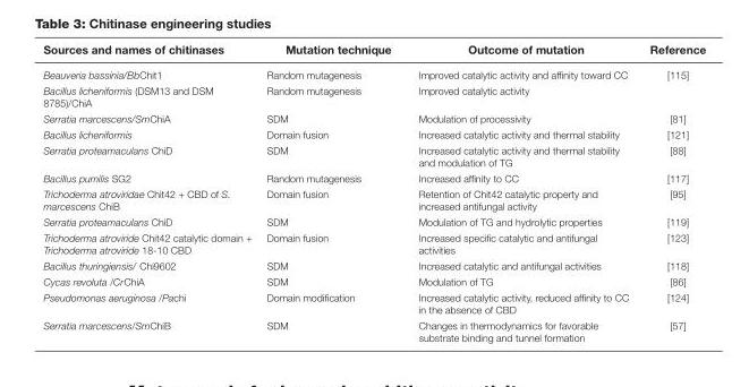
<table><thead><tr><td>Sources and names of chitinases</td><td>Mutation technique</td><td>Outcome of mutation</td><td>Reference</td></tr></thead><tbody><tr><td>Beauveria bassinia/BbChit1</td><td>Random mutagenesis</td><td>Improved catalytic activity and affinity toward CC</td><td>[115]</td></tr><tr><td>Bacillus licheniformis (DSM13 and DSM 8785)/ChiA</td><td>Random mutagenesis</td><td>Improved catalytic activity</td><td></td></tr><tr><td>Serratia marcescens/SmChiA</td><td>SDM</td><td>Modulation of processivity</td><td>[81]</td></tr><tr><td>Bacillus licheniformis</td><td>Domain fusion</td><td>Increased catalytic activity and thermal stability</td><td>[121]</td></tr><tr><td>Serratia proteamaculans ChiD</td><td>SDM</td><td>Increased catalytic activity and thermal stability and modulation of TG</td><td>[88]</td></tr><tr><td>Bacillus pumilis SG2</td><td>Random mutagenesis</td><td>Increased affinity to CC</td><td>[117]</td></tr><tr><td>Trichoderma atroviridae Chit42 + CBD of S. marcescens ChiB</td><td>Domain fusion</td><td>Retention of Chit42 catalytic property and increased antifungal activity</td><td>[95]</td></tr><tr><td>Serratia proteamaculans ChiD</td><td>SDM</td><td>Modulation of TG and hydrolytic properties</td><td>[119]</td></tr><tr><td>Trichoderma atroviride Chit42 catalytic domain + Trichoderma atroviride 18-10 CBD</td><td>Domain fusion</td><td>Increased specific catalytic and antifungal activities</td><td>[123]</td></tr><tr><td>Bacillus thuringiensis/ Chi9602</td><td>SDM</td><td>Increased catalytic and antifungal activities</td><td>[118]</td></tr><tr><td>Cycas revoluta /CrChiA</td><td>SDM</td><td>Modulation of TG</td><td>[86]</td></tr><tr><td>Pseudomonas aeruginosa /Pachi</td><td>Domain modification</td><td>Increased catalytic activity, reduced affinity to CC in the absence of CBD</td><td>[124]</td></tr><tr><td>Serratia marcescens/SmChiB</td><td>SDM</td><td>Changes in thermodynamics for favorable substrate binding and tunnel formation</td><td>[57]</td></tr></tbody></table>